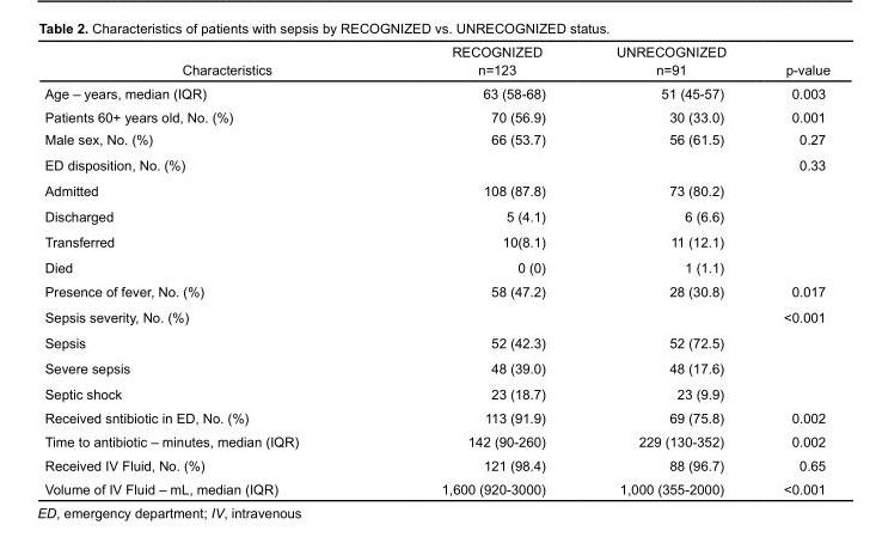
<table><thead><tr><td>Characteristics</td><td>RECOGNIZED n=123</td><td>UNRECOGNIZED n=91</td><td>p-value</td></tr></thead><tbody><tr><td>Age – years, median (IQR)</td><td>63 (58-68)</td><td>51 (45-57)</td><td>0.003</td></tr><tr><td>Patients 60+ years old, No. (%)</td><td>70 (56.9)</td><td>30 (33.0)</td><td>0.001</td></tr><tr><td>Male sex, No. (%)</td><td>66 (53.7)</td><td>56 (61.5)</td><td>0.27</td></tr><tr><td>ED disposition, No. (%)</td><td></td><td></td><td>0.33</td></tr><tr><td>Admitted</td><td>108 (87.8)</td><td>73 (80.2)</td><td></td></tr><tr><td>Discharged</td><td>5 (4.1)</td><td>6 (6.6)</td><td></td></tr><tr><td>Transferred</td><td>10(8.1)</td><td>11 (12.1)</td><td></td></tr><tr><td>Died</td><td>0 (0)</td><td>1 (1.1)</td><td></td></tr><tr><td>Presence of fever, No. (%)</td><td>58 (47.2)</td><td>28 (30.8)</td><td>0.017</td></tr><tr><td>Sepsis severity, No. (%)</td><td></td><td></td><td>&lt;0.001</td></tr><tr><td>Sepsis</td><td>52 (42.3)</td><td>52 (72.5)</td><td></td></tr><tr><td>Severe sepsis</td><td>48 (39.0)</td><td>48 (17.6)</td><td></td></tr><tr><td>Septic shock</td><td>23 (18.7)</td><td>23 (9.9)</td><td></td></tr><tr><td>Received sntibiotic in ED, No. (%)</td><td>113 (91.9)</td><td>69 (75.8)</td><td>0.002</td></tr><tr><td>Time to antibiotic – minutes, median (IQR)</td><td>142 (90-260)</td><td>229 (130-352)</td><td>0.002</td></tr><tr><td>Received IV Fluid, No. (%)</td><td>121 (98.4)</td><td>88 (96.7)</td><td>0.65</td></tr><tr><td>Volume of IV Fluid – mL, median (IQR)</td><td>1,600 (920-3000)</td><td>1,000 (355-2000)</td><td>&lt;0.001</td></tr></tbody></table>